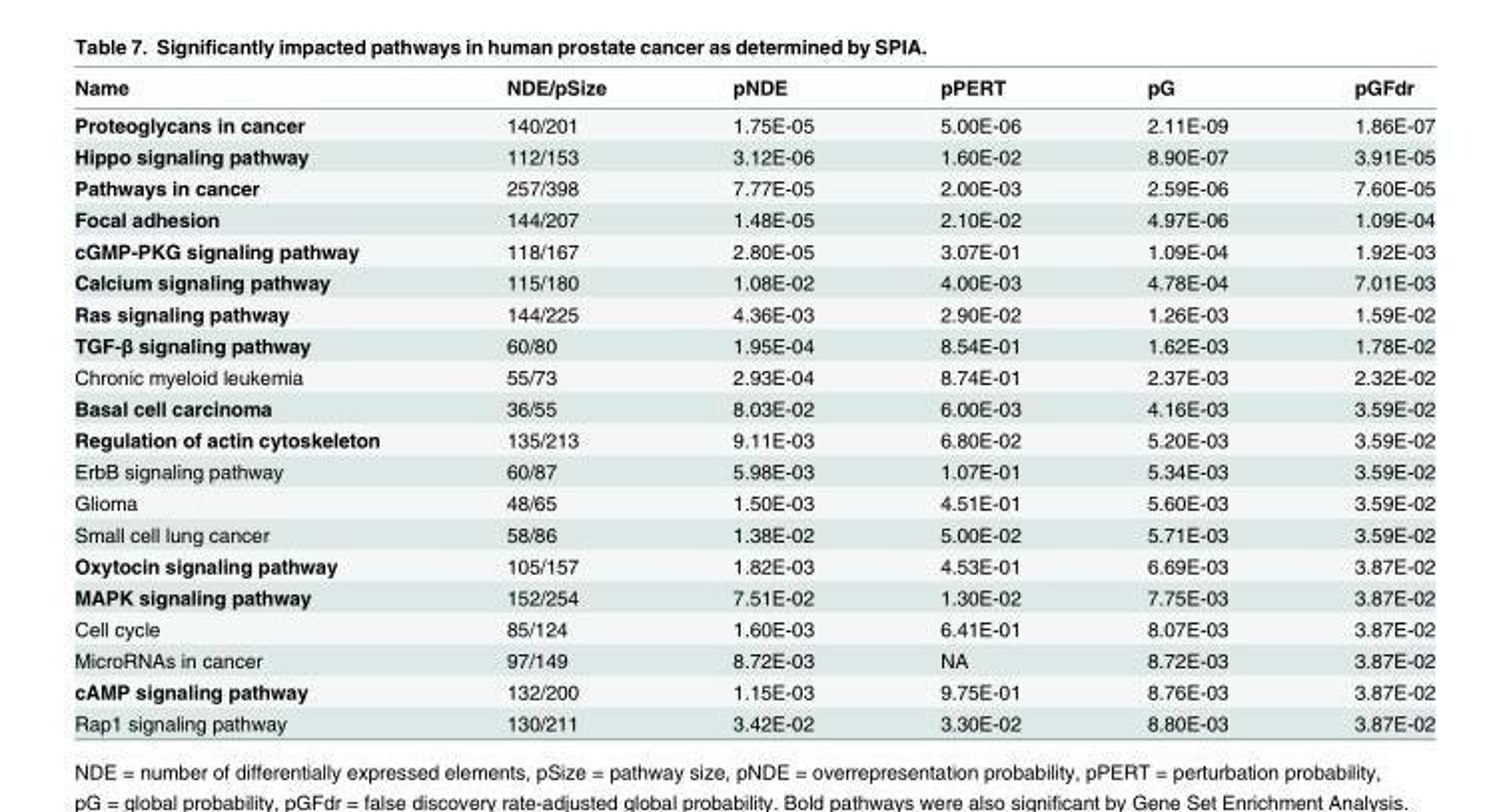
<table><thead><tr><td>Name</td><td>NDE/pSize</td><td>pNDE</td><td>pPERT</td><td>pG</td><td>pGFdr</td></tr></thead><tbody><tr><td>Proteoglycans in cancer</td><td>140/201</td><td>1.75E-05</td><td>5.00E-06</td><td>2.11E-09</td><td>1.86E-07</td></tr><tr><td>Hippo signaling pathway</td><td>112/153</td><td>3.12E-06</td><td>1.60E-02</td><td>8.90E-07</td><td>3.91E-05</td></tr><tr><td>Pathways in cancer</td><td>257/398</td><td>7.77E-05</td><td>2.00E-03</td><td>2.59E-06</td><td>7.60E-05</td></tr><tr><td>Focal adhesion</td><td>144/207</td><td>1.48E-05</td><td>2.10E-02</td><td>4.97E-06</td><td>1.09E-04</td></tr><tr><td>cGMP-PKG signaling pathway</td><td>118/167</td><td>2.80E-05</td><td>3.07E-01</td><td>1.09E-04</td><td>1.92E-03</td></tr><tr><td>Calcium signaling pathway</td><td>115/180</td><td>1.08E-02</td><td>4.00E-03</td><td>4.78E-04</td><td>7.01E-03</td></tr><tr><td>Ras signaling pathway</td><td>144/225</td><td>4.36E-03</td><td>2.90E-02</td><td>1.26E-03</td><td>1.59E-02</td></tr><tr><td>TGF-β signaling pathway</td><td>60/80</td><td>1.95E-04</td><td>8.54E-01</td><td>1.62E-03</td><td>1.78E-02</td></tr><tr><td>Chronic myeloid leukemia</td><td>55/73</td><td>2.93E-04</td><td>8.74E-01</td><td>2.37E-03</td><td>2.32E-02</td></tr><tr><td>Basal cell carcinoma</td><td>36/55</td><td>8.03E-02</td><td>6.00E-03</td><td>4.16E-03</td><td>3.59E-02</td></tr><tr><td>Regulation of actin cytoskeleton</td><td>135/213</td><td>9.11E-03</td><td>6.80E-02</td><td>5.20E-03</td><td>3.59E-02</td></tr><tr><td>ErbB signaling pathway</td><td>60/87</td><td>5.98E-03</td><td>1.07E-01</td><td>5.34E-03</td><td>3.59E-02</td></tr><tr><td>Glioma</td><td>48/65</td><td>1.50E-03</td><td>4.51E-01</td><td>5.60E-03</td><td>3.59E-02</td></tr><tr><td>Small cell lung cancer</td><td>58/86</td><td>1.38E-02</td><td>5.00E-02</td><td>5.71E-03</td><td>3.59E-02</td></tr><tr><td>Oxytocin signaling pathway</td><td>105/157</td><td>1.82E-03</td><td>4.53E-01</td><td>6.69E-03</td><td>3.87E-02</td></tr><tr><td>MAPK signaling pathway</td><td>152/254</td><td>7.51E-02</td><td>1.30E-02</td><td>7.75E-03</td><td>3.87E-02</td></tr><tr><td>Cell cycle</td><td>85/124</td><td>1.60E-03</td><td>6.41E-01</td><td>8.07E-03</td><td>3.87E-02</td></tr><tr><td>MicroRNAs in cancer</td><td>97/149</td><td>8.72E-03</td><td>NA</td><td>8.72E-03</td><td>3.87E-02</td></tr><tr><td>cAMP signaling pathway</td><td>132/200</td><td>1.15E-03</td><td>9.75E-01</td><td>8.76E-03</td><td>3.87E-02</td></tr><tr><td>Rap1 signaling pathway</td><td>130/211</td><td>3.42E-02</td><td>3.30E-02</td><td>8.80E-03</td><td>3.87E-02</td></tr></tbody></table>